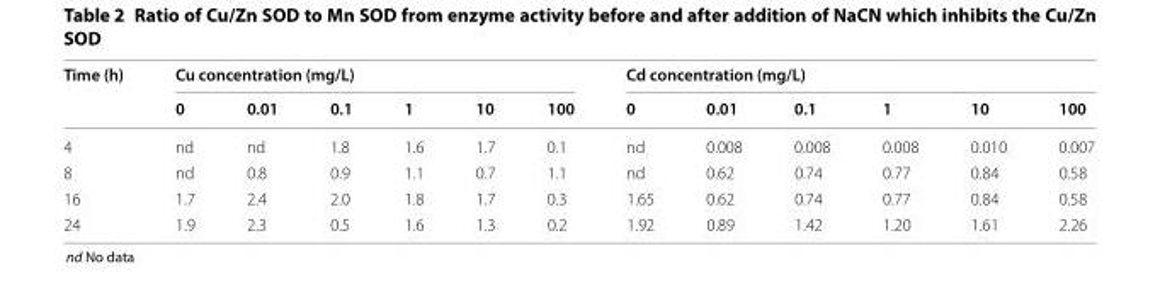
<table><thead><tr><td rowspan="2">Time (h)</td><td colspan="6">Cu concentration (mg/L)</td><td colspan="6">Cd concentration (mg/L)</td></tr><tr><td>0</td><td>0.01</td><td>0.1</td><td>1</td><td>10</td><td>100</td><td>0</td><td>0.01</td><td>0.1</td><td>1</td><td>10</td><td>100</td></tr></thead><tbody><tr><td>4</td><td>nd</td><td>nd</td><td>1.8</td><td>1.6</td><td>1.7</td><td>0.1</td><td>nd</td><td>0.008</td><td>0.008</td><td>0.008</td><td>0.010</td><td>0.007</td></tr><tr><td>8</td><td>nd</td><td>0.8</td><td>0.9</td><td>1.1</td><td>0.7</td><td>1.1</td><td>nd</td><td>0.62</td><td>0.74</td><td>0.77</td><td>0.84</td><td>0.58</td></tr><tr><td>16</td><td>1.7</td><td>2.4</td><td>2.0</td><td>1.8</td><td>1.7</td><td>0.3</td><td>1.65</td><td>0.62</td><td>0.74</td><td>0.77</td><td>0.84</td><td>0.58</td></tr><tr><td>24</td><td>1.9</td><td>2.3</td><td>0.5</td><td>1.6</td><td>1.3</td><td>0.2</td><td>1.92</td><td>0.89</td><td>1.42</td><td>1.20</td><td>1.61</td><td>2.26</td></tr></tbody></table>